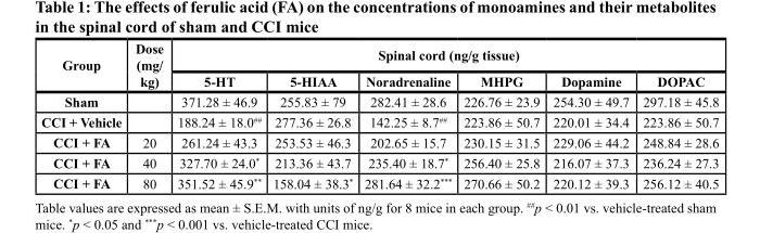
<table><thead><tr><td rowspan="2">Group</td><td rowspan="2">Dose (mg/ kg)</td><td colspan="6">Spinal cord (ng/g tissue)</td></tr><tr><td>5-HT</td><td>5-HIAA</td><td>Noradrenaline</td><td>MHPG</td><td>Dopamine</td><td>DOPAC</td></tr></thead><tbody><tr><td>Sham</td><td></td><td>371.28 ± 46.9</td><td>255.83 ± 79</td><td>282.41 ± 28.6</td><td>226.76 ± 23.9</td><td>254.30 ± 49.7</td><td>297.18 ± 45.8</td></tr><tr><td>CCI + Vehicle</td><td></td><td>188.24 ± 18.0<sup>##</sup></td><td>277.36 ± 26.8</td><td>142.25 ± 8.7<sup>##</sup></td><td>223.86 ± 50.7</td><td>220.01 ± 34.4</td><td>223.86 ± 50.7</td></tr><tr><td>CCI + FA</td><td>20</td><td>261.24 ± 43.3</td><td>253.53 ± 46.3</td><td>202.65 ± 15.7</td><td>230.15 ± 31.5</td><td>229.06 ± 44.2</td><td>248.84 ± 28.6</td></tr><tr><td>CCI + FA</td><td>40</td><td>327.70 ± 24.0*</td><td>213.36 ± 43.7</td><td>235.40 ± 18.7*</td><td>256.40 ± 25.8</td><td>216.07 ± 37.3</td><td>236.24 ± 27.3</td></tr><tr><td>CCI + FA</td><td>80</td><td>351.52 ± 45.9**</td><td>158.04 ± 38.3*</td><td>281.64 ± 32.2***</td><td>270.66 ± 50.2</td><td>220.12 ± 39.3</td><td>256.12 ± 40.5</td></tr></tbody></table>